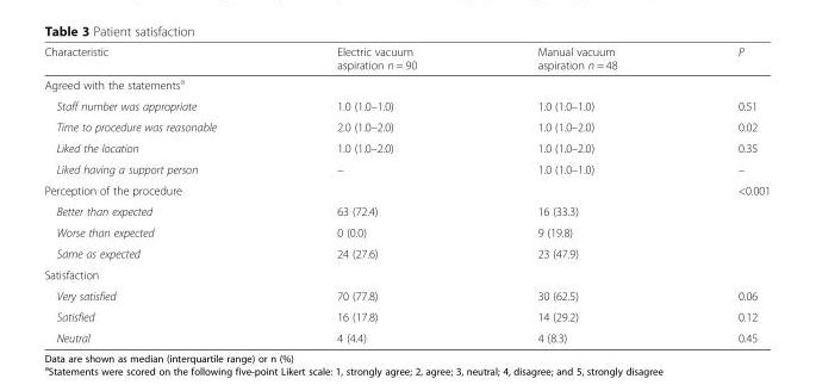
<table><thead><tr><td>Characteristic</td><td>Electric vacuum aspiration n = 90</td><td>Manual vacuum aspiration n = 48</td><td>P</td></tr></thead><tbody><tr><td colspan="4">Agreed with the statements<sup>a</sup></td></tr><tr><td>Staff number was appropriate</td><td>1.0 (1.0–1.0)</td><td>1.0 (1.0–1.0)</td><td>0.51</td></tr><tr><td>Time to procedure was reasonable</td><td>2.0 (1.0–2.0)</td><td>1.0 (1.0–2.0)</td><td>0.02</td></tr><tr><td>Liked the location</td><td>1.0 (1.0–2.0)</td><td>1.0 (1.0–2.0)</td><td>0.35</td></tr><tr><td>Liked having a support person</td><td>–</td><td>1.0 (1.0–1.0)</td><td>–</td></tr><tr><td colspan="3">Perception of the procedure</td><td>&lt;0.001</td></tr><tr><td>Better than expected</td><td>63 (72.4)</td><td>16 (33.3)</td><td></td></tr><tr><td>Worse than expected</td><td>0 (0.0)</td><td>9 (19.8)</td><td></td></tr><tr><td>Same as expected</td><td>24 (27.6)</td><td>23 (47.9)</td><td></td></tr><tr><td colspan="4">Satisfaction</td></tr><tr><td>Very satisfied</td><td>70 (77.8)</td><td>30 (62.5)</td><td>0.06</td></tr><tr><td>Satisfied</td><td>16 (17.8)</td><td>14 (29.2)</td><td>0.12</td></tr><tr><td>Neutral</td><td>4 (4.4)</td><td>4 (8.3)</td><td>0.45</td></tr></tbody></table>